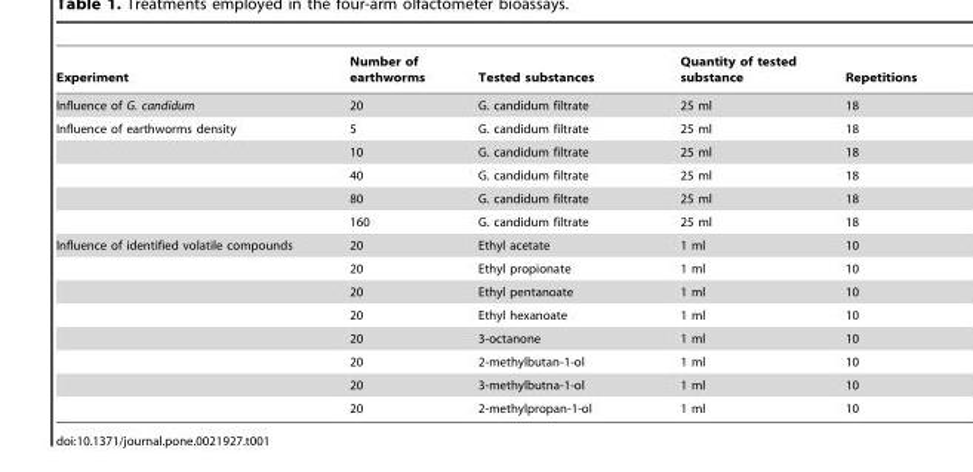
<table><thead><tr><td>Experiment</td><td>Number of earthworms</td><td>Tested substances</td><td>Quantity of tested substance</td><td>Repetitions</td></tr></thead><tbody><tr><td>Influence of G. candidum</td><td>20</td><td>G. candidum filtrate</td><td>25 ml</td><td>18</td></tr><tr><td rowspan="5">Influence of earthworms density</td><td>5</td><td>G. candidum filtrate</td><td>25 ml</td><td>18</td></tr><tr><td>10</td><td>G. candidum filtrate</td><td>25 ml</td><td>18</td></tr><tr><td>40</td><td>G. candidum filtrate</td><td>25 ml</td><td>18</td></tr><tr><td>80</td><td>G. candidum filtrate</td><td>25 ml</td><td>18</td></tr><tr><td>160</td><td>G. candidum filtrate</td><td>25 ml</td><td>18</td></tr><tr><td rowspan="8">Influence of identified volatile compounds</td><td>20</td><td>Ethyl acetate</td><td>1 ml</td><td>10</td></tr><tr><td>20</td><td>Ethyl propionate</td><td>1 ml</td><td>10</td></tr><tr><td>20</td><td>Ethyl pentanoate</td><td>1 ml</td><td>10</td></tr><tr><td>20</td><td>Ethyl hexanoate</td><td>1 ml</td><td>10</td></tr><tr><td>20</td><td>3-octanone</td><td>1 ml</td><td>10</td></tr><tr><td>20</td><td>2-methylbutan-1-ol</td><td>1 ml</td><td>10</td></tr><tr><td>20</td><td>3-methylbutna-1-ol</td><td>1 ml</td><td>10</td></tr><tr><td>20</td><td>2-methylpropan-1-ol</td><td>1 ml</td><td>10</td></tr></tbody></table>